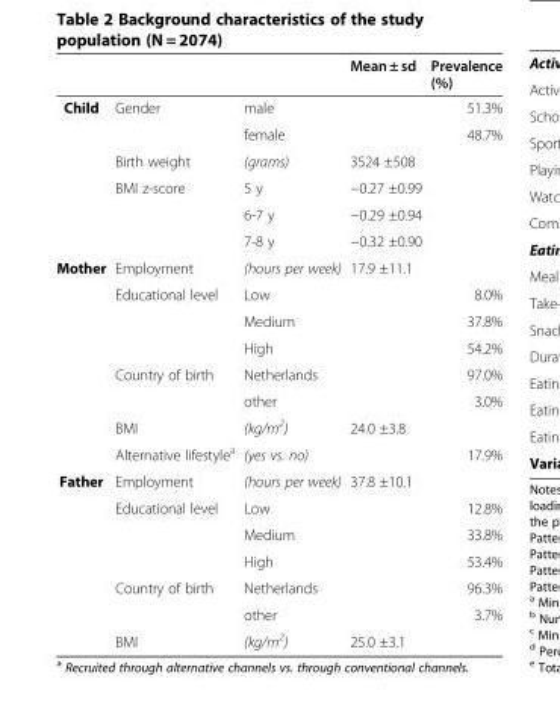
<table><thead><tr><td></td><td></td><td></td><td>Mean ± sd</td><td>Prevalence (%)</td></tr></thead><tbody><tr><td rowspan="6">Child</td><td rowspan="2">Gender</td><td>male</td><td rowspan="2"></td><td>51.3%</td></tr><tr><td>female</td><td>48.7%</td></tr><tr><td>Birth weight</td><td>(grams)</td><td>3524 ±508</td><td></td></tr><tr><td rowspan="3">BMI z-score</td><td>5 y</td><td>−0.27 ±0.99</td><td></td></tr><tr><td>6-7 y</td><td>−0.29 ±0.94</td><td></td></tr><tr><td>7-8 y</td><td>−0.32 ±0.90</td><td></td></tr><tr><td rowspan="8">Mother</td><td>Employment</td><td>(hours per week)</td><td>17.9 ±11.1</td><td></td></tr><tr><td rowspan="3">Educational level</td><td>Low</td><td rowspan="3"></td><td>8.0%</td></tr><tr><td>Medium</td><td>37.8%</td></tr><tr><td>High</td><td>54.2%</td></tr><tr><td rowspan="2">Country of birth</td><td>Netherlands</td><td rowspan="2"></td><td>97.0%</td></tr><tr><td>other</td><td>3.0%</td></tr><tr><td>BMI</td><td>(kg/m<sup>2</sup>)</td><td>24.0 ±3.8</td><td></td></tr><tr><td>Alternative lifestyle<sup>a</sup></td><td>(yes vs. no)</td><td></td><td>17.9%</td></tr><tr><td rowspan="7">Father</td><td>Employment</td><td>(hours per week)</td><td>37.8 ±10.1</td><td></td></tr><tr><td rowspan="3">Educational level</td><td>Low</td><td rowspan="3"></td><td>12.8%</td></tr><tr><td>Medium</td><td>33.8%</td></tr><tr><td>High</td><td>53.4%</td></tr><tr><td rowspan="2">Country of birth</td><td>Netherlands</td><td rowspan="2"></td><td>96.3%</td></tr><tr><td>other</td><td>3.7%</td></tr><tr><td>BMI</td><td>(kg/m<sup>2</sup>)</td><td>25.0 ±3.1</td><td></td></tr></tbody></table>